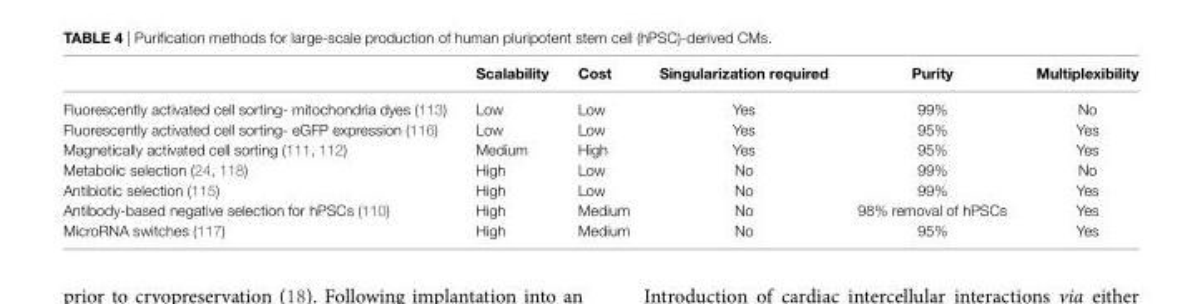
<table><thead><tr><td></td><td>Scalability</td><td>Cost</td><td>Singularization required</td><td>Purity</td><td>Multiplexibility</td></tr></thead><tbody><tr><td>Fluorescently activated cell sorting- mitochondria dyes (113)</td><td>Low</td><td>Low</td><td>Yes</td><td>99%</td><td>No</td></tr><tr><td>Fluorescently activated cell sorting- eGFP expression (116)</td><td>Low</td><td>Low</td><td>Yes</td><td>95%</td><td>Yes</td></tr><tr><td>Magnetically activated cell sorting (111, 112)</td><td>Medium</td><td>High</td><td>Yes</td><td>95%</td><td>Yes</td></tr><tr><td>Metabolic selection (24, 118)</td><td>High</td><td>Low</td><td>No</td><td>99%</td><td>No</td></tr><tr><td>Antibiotic selection (115)</td><td>High</td><td>Low</td><td>No</td><td>99%</td><td>Yes</td></tr><tr><td>Antibody-based negative selection for hPSCs (110)</td><td>High</td><td>Medium</td><td>No</td><td>98% removal of hPSCs</td><td>Yes</td></tr><tr><td>MicroRNA switches (117)</td><td>High</td><td>Medium</td><td>No</td><td>95%</td><td>Yes</td></tr></tbody></table>